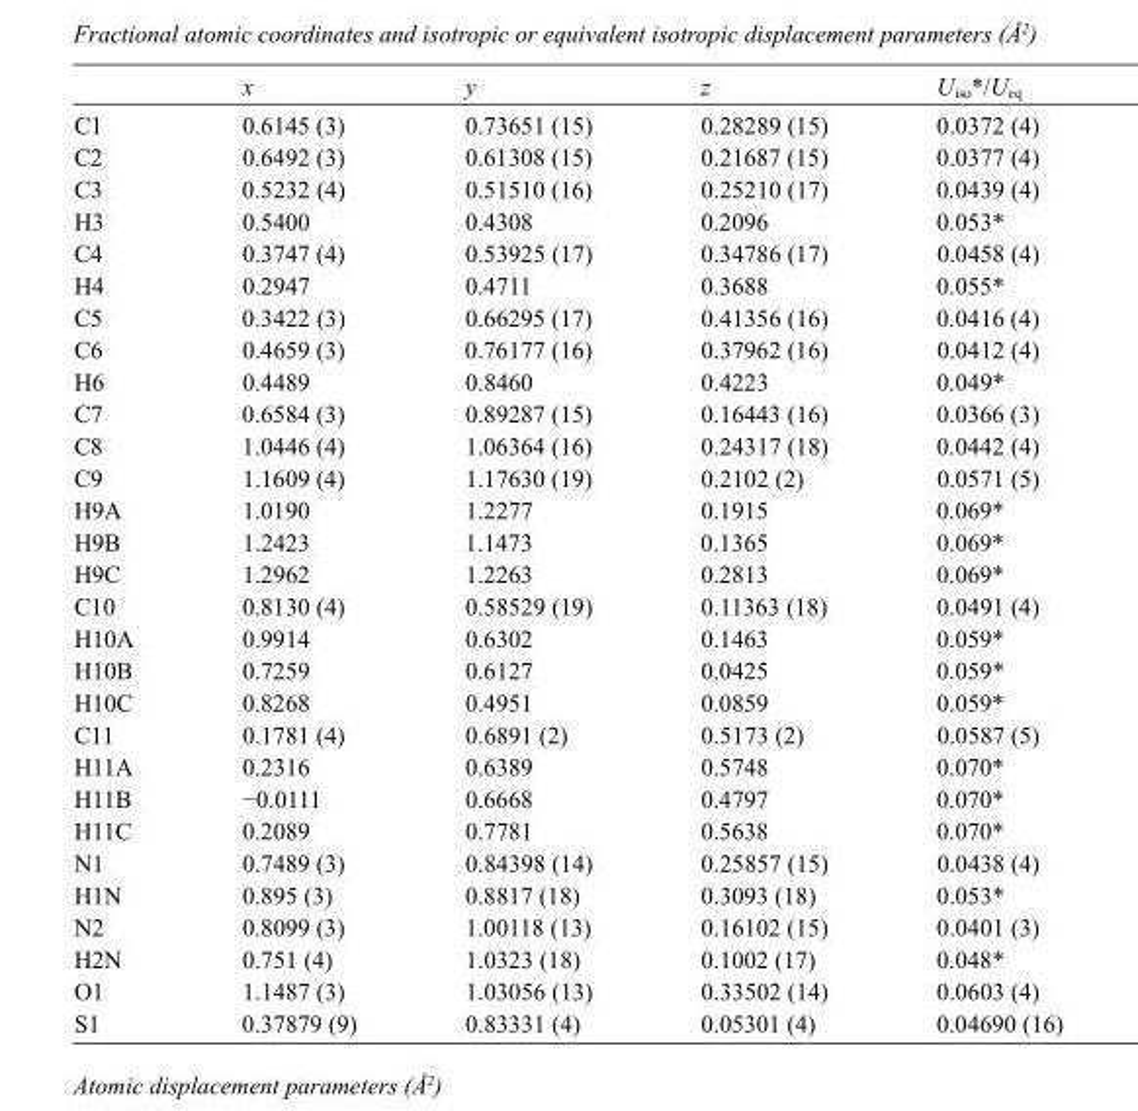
<table><thead><tr><td></td><td>x</td><td>y</td><td>z</td><td>U<sub>iso</sub>*/U<sub>eq</sub></td></tr></thead><tbody><tr><td>C1</td><td>0.6145 (3)</td><td>0.73651 (15)</td><td>0.28289 (15)</td><td>0.0372 (4)</td></tr><tr><td>C2</td><td>0.6492 (3)</td><td>0.61308 (15)</td><td>0.21687 (15)</td><td>0.0377 (4)</td></tr><tr><td>C3</td><td>0.5232 (4)</td><td>0.51510 (16)</td><td>0.25210 (17)</td><td>0.0439 (4)</td></tr><tr><td>H3</td><td>0.5400</td><td>0.4308</td><td>0.2096</td><td>0.053*</td></tr><tr><td>C4</td><td>0.3747 (4)</td><td>0.53925 (17)</td><td>0.34786 (17)</td><td>0.0458 (4)</td></tr><tr><td>H4</td><td>0.2947</td><td>0.4711</td><td>0.3688</td><td>0.055*</td></tr><tr><td>C5</td><td>0.3422 (3)</td><td>0.66295 (17)</td><td>0.41356 (16)</td><td>0.0416 (4)</td></tr><tr><td>C6</td><td>0.4659 (3)</td><td>0.76177 (16)</td><td>0.37962 (16)</td><td>0.0412 (4)</td></tr><tr><td>H6</td><td>0.4489</td><td>0.8460</td><td>0.4223</td><td>0.049*</td></tr><tr><td>C7</td><td>0.6584 (3)</td><td>0.89287 (15)</td><td>0.16443 (16)</td><td>0.0366 (3)</td></tr><tr><td>C8</td><td>1.0446 (4)</td><td>1.06364 (16)</td><td>0.24317 (18)</td><td>0.0442 (4)</td></tr><tr><td>C9</td><td>1.1609 (4)</td><td>1.17630 (19)</td><td>0.2102 (2)</td><td>0.0571 (5)</td></tr><tr><td>H9A</td><td>1.0190</td><td>1.2277</td><td>0.1915</td><td>0.069*</td></tr><tr><td>H9B</td><td>1.2423</td><td>1.1473</td><td>0.1365</td><td>0.069*</td></tr><tr><td>H9C</td><td>1.2962</td><td>1.2263</td><td>0.2813</td><td>0.069*</td></tr><tr><td>C10</td><td>0.8130 (4)</td><td>0.58529 (19)</td><td>0.11363 (18)</td><td>0.0491 (4)</td></tr><tr><td>H10A</td><td>0.9914</td><td>0.6302</td><td>0.1463</td><td>0.059*</td></tr><tr><td>H10B</td><td>0.7259</td><td>0.6127</td><td>0.0425</td><td>0.059*</td></tr><tr><td>H10C</td><td>0.8268</td><td>0.4951</td><td>0.0859</td><td>0.059*</td></tr><tr><td>C11</td><td>0.1781 (4)</td><td>0.6891 (2)</td><td>0.5173 (2)</td><td>0.0587 (5)</td></tr><tr><td>H11A</td><td>0.2316</td><td>0.6389</td><td>0.5748</td><td>0.070*</td></tr><tr><td>H11B</td><td>−0.0111</td><td>0.6668</td><td>0.4797</td><td>0.070*</td></tr><tr><td>H11C</td><td>0.2089</td><td>0.7781</td><td>0.5638</td><td>0.070*</td></tr><tr><td>N1</td><td>0.7489 (3)</td><td>0.84398 (14)</td><td>0.25857 (15)</td><td>0.0438 (4)</td></tr><tr><td>H1N</td><td>0.895 (3)</td><td>0.8817 (18)</td><td>0.3093 (18)</td><td>0.053*</td></tr><tr><td>N2</td><td>0.8099 (3)</td><td>1.00118 (13)</td><td>0.16102 (15)</td><td>0.0401 (3)</td></tr><tr><td>H2N</td><td>0.751 (4)</td><td>1.0323 (18)</td><td>0.1002 (17)</td><td>0.048*</td></tr><tr><td>O1</td><td>1.1487 (3)</td><td>1.03056 (13)</td><td>0.33502 (14)</td><td>0.0603 (4)</td></tr><tr><td>S1</td><td>0.37879 (9)</td><td>0.83331 (4)</td><td>0.05301 (4)</td><td>0.04690 (16)</td></tr></tbody></table>